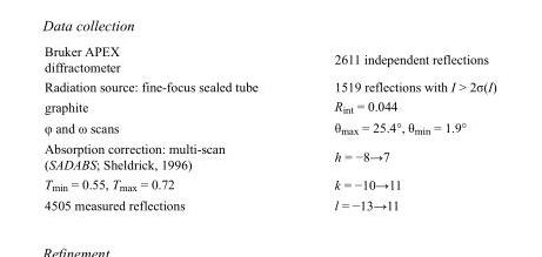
<table><tbody><tr><td>Bruker APEX diffractometer</td><td>2611 independent reflections</td></tr><tr><td>Radiation source: fine-focus sealed tube</td><td>1519 reflections with I &gt; 2σ(I)</td></tr><tr><td>graphite</td><td>R<sub>int</sub> = 0.044</td></tr><tr><td>φ and ω scans</td><td>θ<sub>max</sub> = 25.4°, θ<sub>min</sub> = 1.9°</td></tr><tr><td>Absorption correction: multi-scan (SADABS; Sheldrick, 1996)</td><td>h = −8→7</td></tr><tr><td>T<sub>min</sub> = 0.55, T<sub>max</sub> = 0.72</td><td>k = −10→11</td></tr><tr><td>4505 measured reflections</td><td>l = −13→11</td></tr></tbody></table>